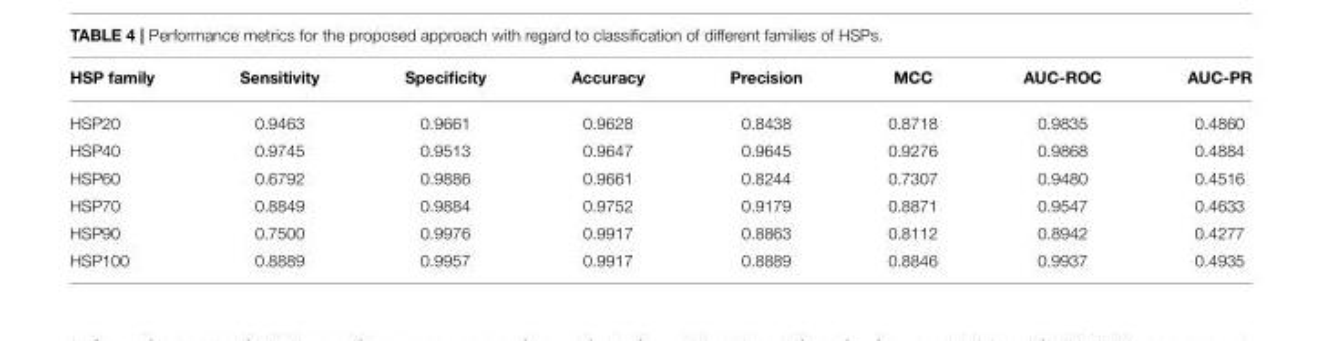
<table><thead><tr><td>HSP family</td><td>Sensitivity</td><td>Specificity</td><td>Accuracy</td><td>Precision</td><td>MCC</td><td>AUC-ROC</td><td>AUC-PR</td></tr></thead><tbody><tr><td>HSP20</td><td>0.9463</td><td>0.9661</td><td>0.9628</td><td>0.8438</td><td>0.8718</td><td>0.9835</td><td>0.4860</td></tr><tr><td>HSP40</td><td>0.9745</td><td>0.9513</td><td>0.9647</td><td>0.9645</td><td>0.9276</td><td>0.9868</td><td>0.4884</td></tr><tr><td>HSP60</td><td>0.6792</td><td>0.9886</td><td>0.9661</td><td>0.8244</td><td>0.7307</td><td>0.9480</td><td>0.4516</td></tr><tr><td>HSP70</td><td>0.8849</td><td>0.9884</td><td>0.9752</td><td>0.9179</td><td>0.8871</td><td>0.9547</td><td>0.4633</td></tr><tr><td>HSP90</td><td>0.7500</td><td>0.9976</td><td>0.9917</td><td>0.8863</td><td>0.8112</td><td>0.8942</td><td>0.4277</td></tr><tr><td>HSP100</td><td>0.8889</td><td>0.9957</td><td>0.9917</td><td>0.8889</td><td>0.8846</td><td>0.9937</td><td>0.4935</td></tr></tbody></table>